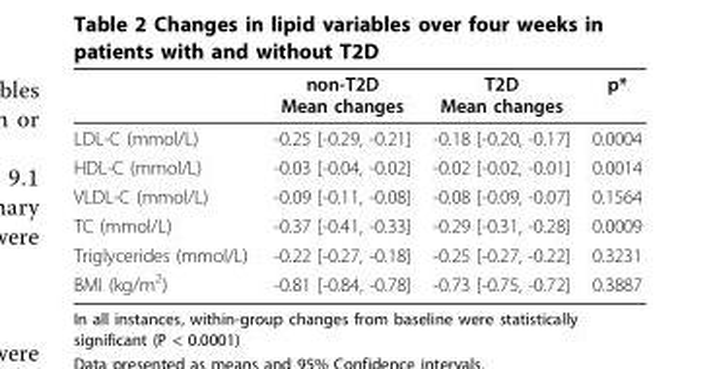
<table><thead><tr><td></td><td>non-T2D Mean changes</td><td>T2D Mean changes</td><td>p*</td></tr></thead><tbody><tr><td>LDL-C (mmol/L)</td><td>-0.25 [-0.29, -0.21]</td><td>-0.18 [-0.20, -0.17]</td><td>0.0004</td></tr><tr><td>HDL-C (mmol/L)</td><td>-0.03 [-0.04, -0.02]</td><td>-0.02 [-0.02, -0.01]</td><td>0.0014</td></tr><tr><td>VLDL-C (mmol/L)</td><td>-0.09 [-0.11, -0.08]</td><td>-0.08 [-0.09, -0.07]</td><td>0.1564</td></tr><tr><td>TC (mmol/L)</td><td>-0.37 [-0.41, -0.33]</td><td>-0.29 [-0.31, -0.28]</td><td>0.0009</td></tr><tr><td>Triglycerides (mmol/L)</td><td>-0.22 [-0.27, -0.18]</td><td>-0.25 [-0.27, -0.22]</td><td>0.3231</td></tr><tr><td>BMI (kg/m<sup>2</sup>)</td><td>-0.81 [-0.84, -0.78]</td><td>-0.73 [-0.75, -0.72]</td><td>0.3887</td></tr></tbody></table>